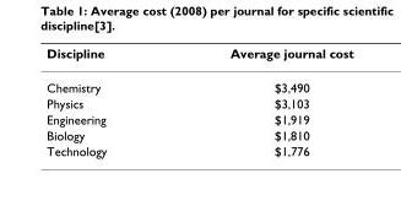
<table><thead><tr><td>Discipline</td><td>Average journal cost</td></tr></thead><tbody><tr><td>Chemistry</td><td>$3,490</td></tr><tr><td>Physics</td><td>$3,103</td></tr><tr><td>Engineering</td><td>$1,919</td></tr><tr><td>Biology</td><td>$1,810</td></tr><tr><td>Technology</td><td>$1,776</td></tr></tbody></table>